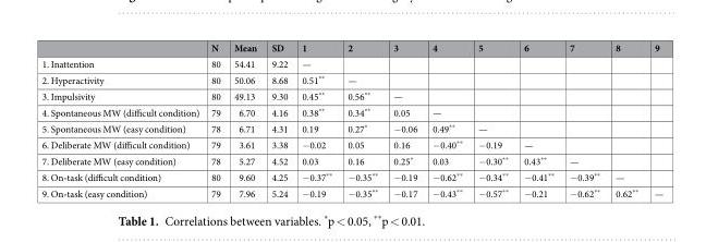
<table><thead><tr><td></td><td>N</td><td>Mean</td><td>SD</td><td>1</td><td>2</td><td>3</td><td>4</td><td>5</td><td>6</td><td>7</td><td>8</td><td>9</td></tr></thead><tbody><tr><td>1. Inattention</td><td>80</td><td>54.41</td><td>9.22</td><td>—</td><td></td><td></td><td></td><td></td><td></td><td></td><td></td><td></td></tr><tr><td>2. Hyperactivity</td><td>80</td><td>50.06</td><td>8.68</td><td>0.51**</td><td>—</td><td></td><td></td><td></td><td></td><td></td><td></td><td></td></tr><tr><td>3. Impulsivity</td><td>80</td><td>49.13</td><td>9.30</td><td>0.45**</td><td>0.56**</td><td>—</td><td></td><td></td><td></td><td></td><td></td><td></td></tr><tr><td>4. Spontaneous MW (difficult condition)</td><td>79</td><td>6.70</td><td>4.16</td><td>0.38**</td><td>0.34**</td><td>0.05</td><td>—</td><td></td><td></td><td></td><td></td><td></td></tr><tr><td>5. Spontaneous MW (easy condition)</td><td>78</td><td>6.71</td><td>4.31</td><td>0.19</td><td>0.27*</td><td>−0.06</td><td>0.49**</td><td>—</td><td></td><td></td><td></td><td></td></tr><tr><td>6. Deliberate MW (difficult condition)</td><td>79</td><td>3.61</td><td>3.38</td><td>−0.02</td><td>0.05</td><td>0.16</td><td>−0.40**</td><td>−0.19</td><td>—</td><td></td><td></td><td></td></tr><tr><td>7. Deliberate MW (easy condition)</td><td>78</td><td>5.27</td><td>4.52</td><td>0.03</td><td>0.16</td><td>0.25*</td><td>0.03</td><td>−0.30**</td><td>0.43**</td><td>—</td><td></td><td></td></tr><tr><td>8. On-task (difficult condition)</td><td>80</td><td>9.60</td><td>4.25</td><td>−0.37**</td><td>−0.35**</td><td>−0.19</td><td>−0.62**</td><td>−0.34**</td><td>−0.41**</td><td>−0.39**</td><td>—</td><td></td></tr><tr><td>9. On-task (easy condition)</td><td>79</td><td>7.96</td><td>5.24</td><td>−0.19</td><td>−0.35**</td><td>−0.17</td><td>−0.43**</td><td>−0.57**</td><td>−0.21</td><td>−0.62**</td><td>0.62**</td><td>—</td></tr></tbody></table>